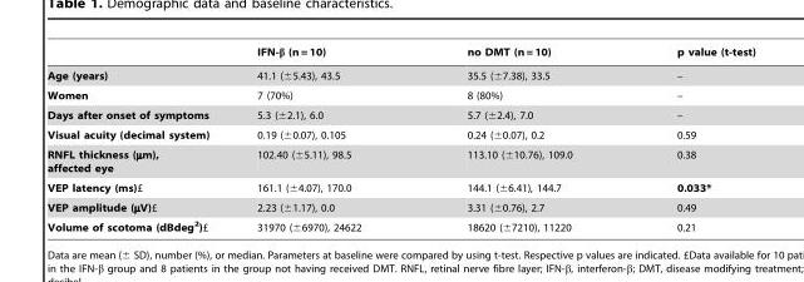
<table><thead><tr><td></td><td>IFN-β (n = 10)</td><td>no DMT (n = 10)</td><td>p value (t-test)</td></tr></thead><tbody><tr><td>Age (years)</td><td>41.1 (±5.43), 43.5</td><td>35.5 (±7.38), 33.5</td><td>–</td></tr><tr><td>Women</td><td>7 (70%)</td><td>8 (80%)</td><td>–</td></tr><tr><td>Days after onset of symptoms</td><td>5.3 (±2.1), 6.0</td><td>5.7 (±2.4), 7.0</td><td>–</td></tr><tr><td>Visual acuity (decimal system)</td><td>0.19 (±0.07), 0.105</td><td>0.24 (±0.07), 0.2</td><td>0.59</td></tr><tr><td>RNFL thickness (µm), affected eye</td><td>102.40 (±5.11), 98.5</td><td>113.10 (±10.76), 109.0</td><td>0.38</td></tr><tr><td>VEP latency (ms)£</td><td>161.1 (±4.07), 170.0</td><td>144.1 (±6.41), 144.7</td><td>0.033*</td></tr><tr><td>VEP amplitude (µV)£</td><td>2.23 (±1.17), 0.0</td><td>3.31 (±0.76), 2.7</td><td>0.49</td></tr><tr><td>Volume of scotoma (dBdeg<sup>2</sup>)£</td><td>31970 (±6970), 24622</td><td>18620 (±7210), 11220</td><td>0.21</td></tr></tbody></table>